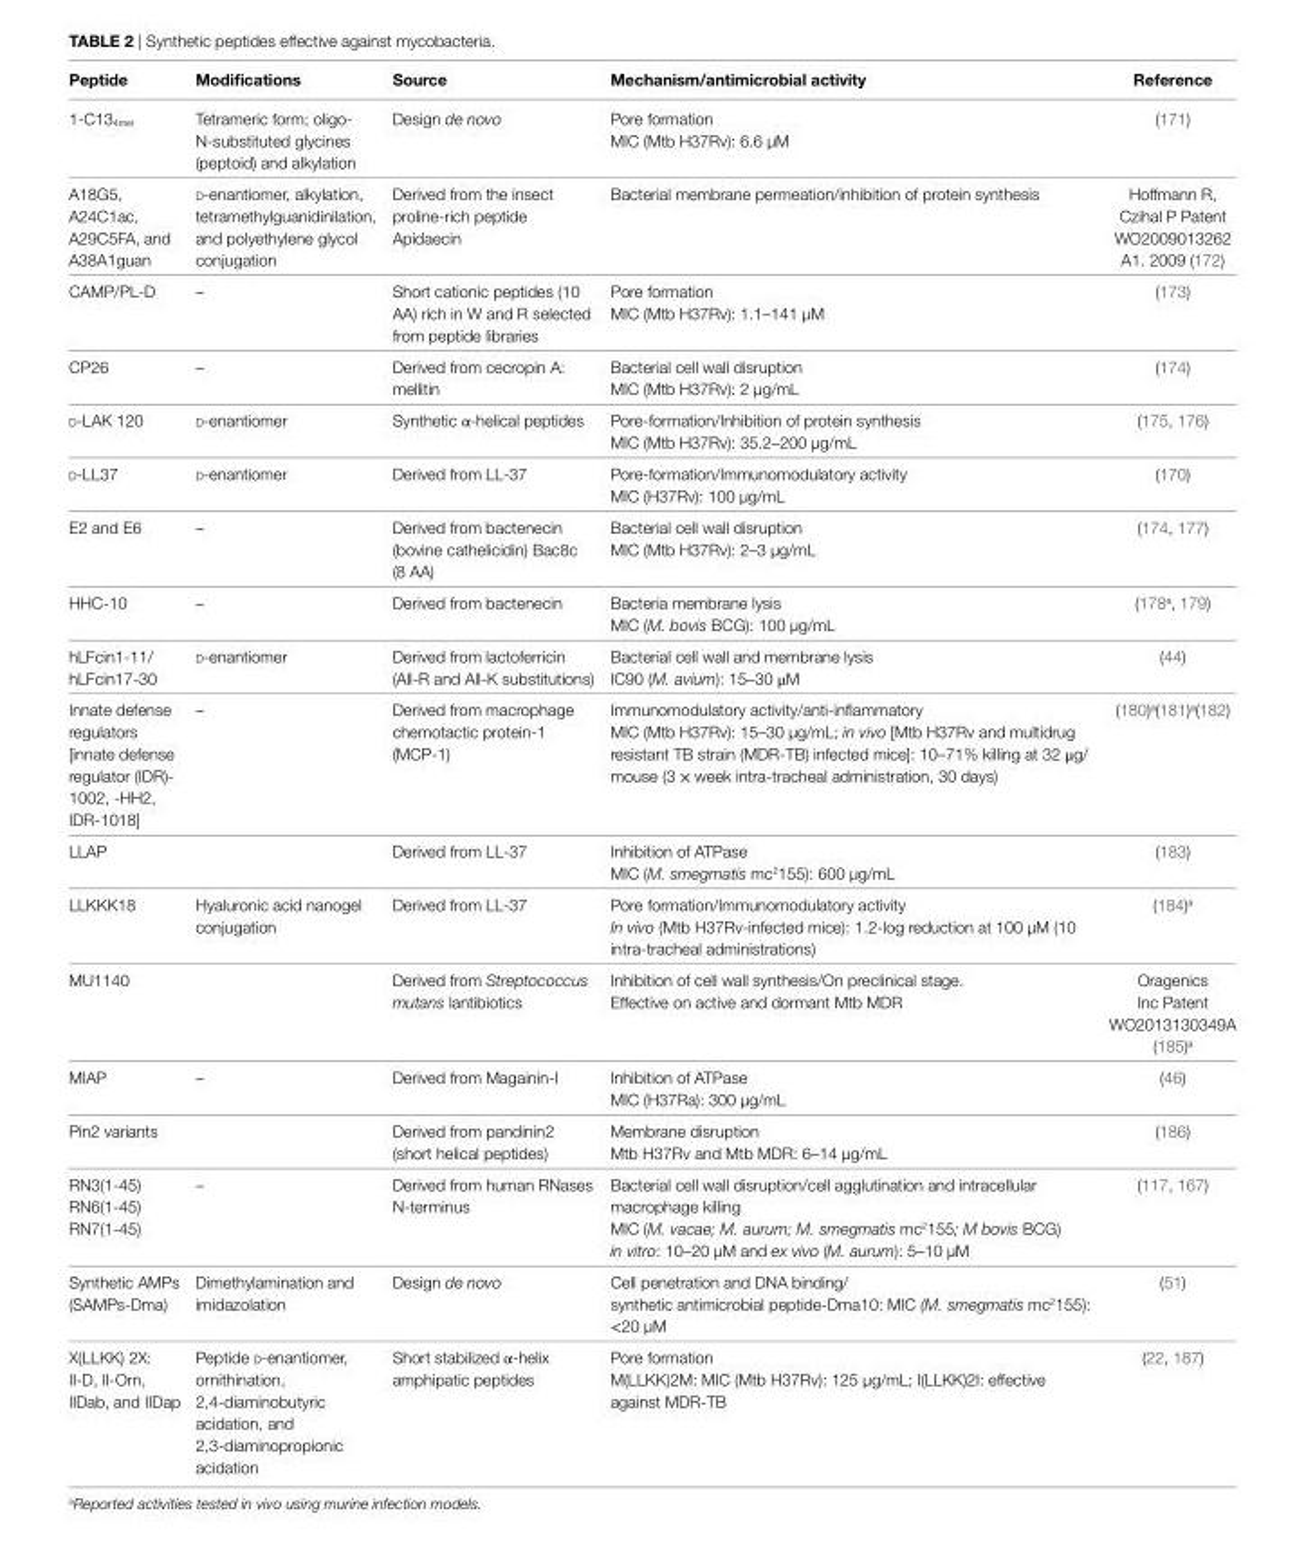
<table><thead><tr><td>Peptide</td><td>Modifications</td><td>Source</td><td>Mechanism/antimicrobial activity</td><td>Reference</td></tr></thead><tbody><tr><td>1-C13<sub>4mer</sub></td><td>Tetrameric form; oligo- N-substituted glycines (peptoid) and alkylation</td><td>Design de novo</td><td>Pore formation MIC (Mtb H37Rv): 6.6 µM</td><td>(171)</td></tr><tr><td>A18G5, A24C1ac, A29C5FA, and A38A1guan</td><td>d-enantiomer, alkylation, tetramethylguanidinilation, and polyethylene glycol conjugation</td><td>Derived from the insect proline-rich peptide Apidaecin</td><td>Bacterial membrane permeation/inhibition of protein synthesis</td><td>Hoffmann R, Czihal P Patent WO2009013262 A1. 2009 (172)</td></tr><tr><td>CAMP/PL-D</td><td>–</td><td>Short cationic peptides (10 AA) rich in W and R selected from peptide libraries</td><td>Pore formation MIC (Mtb H37Rv): 1.1–141 µM</td><td>(173)</td></tr><tr><td>CP26</td><td>–</td><td>Derived from cecropin A: mellitin</td><td>Bacterial cell wall disruption MIC (Mtb H37Rv): 2 µg/mL</td><td>(174)</td></tr><tr><td>d-LAK 120</td><td>d-enantiomer</td><td>Synthetic α-helical peptides</td><td>Pore-formation/Inhibition of protein synthesis MIC (Mtb H37Rv): 35.2–200 µg/mL</td><td>(175, 176)</td></tr><tr><td>d-LL37</td><td>d-enantiomer</td><td>Derived from LL-37</td><td>Pore-formation/Immunomodulatory activity MIC (H37Rv): 100 µg/mL</td><td>(170)</td></tr><tr><td>E2 and E6</td><td>–</td><td>Derived from bactenecin (bovine cathelicidin) Bac8c (8 AA)</td><td>Bacterial cell wall disruption MIC (Mtb H37Rv): 2–3 µg/mL</td><td>(174, 177)</td></tr><tr><td>HHC-10</td><td>–</td><td>Derived from bactenecin</td><td>Bacteria membrane lysis MIC (M. bovis BCG): 100 µg/mL</td><td>(178<sup>a</sup>, 179)</td></tr><tr><td>hLFcin1-11/ hLFcin17-30</td><td>d-enantiomer</td><td>Derived from lactoferricin (All-R and All-K substitutions)</td><td>Bacterial cell wall and membrane lysis IC90 (M. avium): 15–30 μM</td><td>(44)</td></tr><tr><td>Innate defense regulators [innate defense regulator (IDR)- 1002, -HH2, IDR-1018]</td><td>–</td><td>Derived from macrophage chemotactic protein-1 (MCP-1)</td><td>Immunomodulatory activity/anti-inflammatory MIC (Mtb H37Rv): 15–30 µg/mL; in vivo [Mtb H37Rv and multidrug resistant TB strain (MDR-TB) infected mice]: 10–71% killing at 32 μg/ mouse (3 × week intra-tracheal administration, 30 days)</td><td>(180)<sup>a</sup>(181)<sup>a</sup>(182)</td></tr><tr><td>LLAP</td><td></td><td>Derived from LL-37</td><td>Inhibition of ATPase MIC (M. smegmatis mc<sup>2</sup>155): 600 µg/mL</td><td>(183)</td></tr><tr><td>LLKKK18</td><td>Hyaluronic acid nanogel conjugation</td><td>Derived from LL-37</td><td>Pore formation/Immunomodulatory activity In vivo (Mtb H37Rv-infected mice): 1.2-log reduction at 100 µM (10 intra-tracheal administrations)</td><td>(184)<sup>a</sup></td></tr><tr><td>MU1140</td><td></td><td>Derived from Streptococcus mutans lantibiotics</td><td>Inhibition of cell wall synthesis/On preclinical stage. Effective on active and dormant Mtb MDR</td><td>Oragenics Inc Patent WO2013130349A (185)<sup>a</sup></td></tr><tr><td>MIAP</td><td>–</td><td>Derived from Magainin-I</td><td>Inhibition of ATPase MIC (H37Ra): 300 µg/mL</td><td>(46)</td></tr><tr><td>Pin2 variants</td><td></td><td>Derived from pandinin2 (short helical peptides)</td><td>Membrane disruption Mtb H37Rv and Mtb MDR: 6–14 µg/mL</td><td>(186)</td></tr><tr><td>RN3(1-45) RN6(1-45) RN7(1-45)</td><td>–</td><td>Derived from human RNases N-terminus</td><td>Bacterial cell wall disruption/cell agglutination and intracellular macrophage killing MIC (M. vacae; M. aurum; M. smegmatis mc<sup>2</sup>155; M bovis BCG) in vitro: 10–20 µM and ex vivo (M. aurum): 5–10 µM</td><td>(117, 167)</td></tr><tr><td>Synthetic AMPs (SAMPs-Dma)</td><td>Dimethylamination and imidazolation</td><td>Design de novo</td><td>Cell penetration and DNA binding/ synthetic antimicrobial peptide-Dma10: MIC (M. smegmatis mc<sup>2</sup>155): &lt;20 µM</td><td>(51)</td></tr><tr><td>X(LLKK) 2X: II-D, II-Orn, IIDab, and IIDap</td><td>Peptide d-enantiomer, ornithination, 2,4-diaminobutyric acidation, and 2,3-diaminopropionic acidation</td><td>Short stabilized α-helix amphipatic peptides</td><td>Pore formation M(LLKK)2M: MIC (Mtb H37Rv): 125 µg/mL; I(LLKK)2I: effective against MDR-TB</td><td>(22, 187)</td></tr></tbody></table>